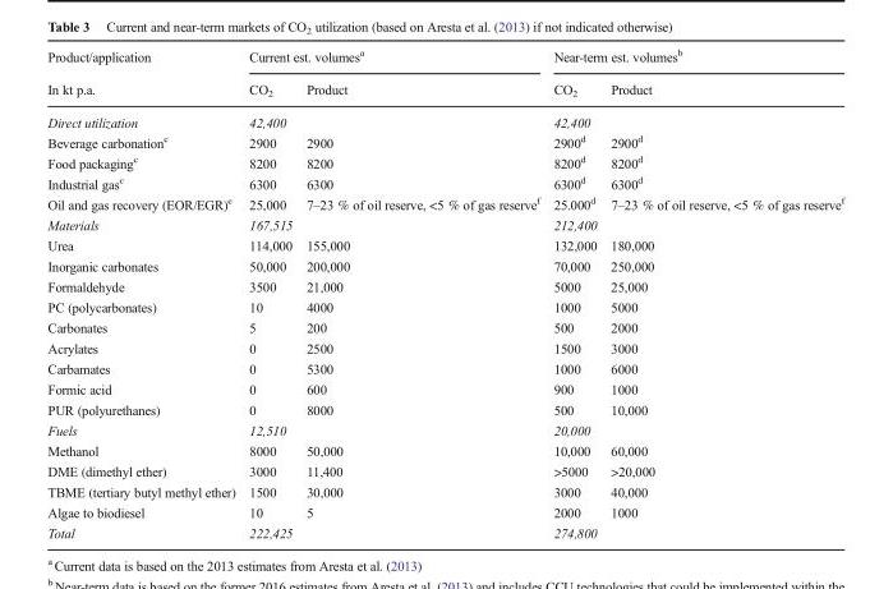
<table><thead><tr><td rowspan="2">Product/application In kt p.a.</td><td colspan="2">Current est. volumes<sup>a</sup></td><td colspan="2">Near-term est. volumes<sup>b</sup></td></tr><tr><td>CO<sub>2</sub></td><td>Product</td><td>CO<sub>2</sub></td><td>Product</td></tr></thead><tbody><tr><td>Direct utilization</td><td>42,400</td><td></td><td>42,400</td><td></td></tr><tr><td>Beverage carbonation<sup>c</sup></td><td>2900</td><td>2900</td><td>2900<sup>d</sup></td><td>2900<sup>d</sup></td></tr><tr><td>Food packaging<sup>c</sup></td><td>8200</td><td>8200</td><td>8200<sup>d</sup></td><td>8200<sup>d</sup></td></tr><tr><td>Industrial gas<sup>c</sup></td><td>6300</td><td>6300</td><td>6300<sup>d</sup></td><td>6300<sup>d</sup></td></tr><tr><td>Oil and gas recovery (EOR/EGR)<sup>e</sup></td><td>25,000</td><td>7–23 % of oil reserve, &lt;5 % of gas reserve<sup>f</sup></td><td>25.000<sup>d</sup></td><td>7–23 % of oil reserve, &lt;5 % of gas reserve<sup>f</sup></td></tr><tr><td>Materials</td><td>167,515</td><td></td><td>212,400</td><td></td></tr><tr><td>Urea</td><td>114,000</td><td>155,000</td><td>132,000</td><td>180,000</td></tr><tr><td>Inorganic carbonates</td><td>50,000</td><td>200,000</td><td>70,000</td><td>250,000</td></tr><tr><td>Formaldehyde</td><td>3500</td><td>21,000</td><td>5000</td><td>25,000</td></tr><tr><td>PC (polycarbonates)</td><td>10</td><td>4000</td><td>1000</td><td>5000</td></tr><tr><td>Carbonates</td><td>5</td><td>200</td><td>500</td><td>2000</td></tr><tr><td>Acrylates</td><td>0</td><td>2500</td><td>1500</td><td>3000</td></tr><tr><td>Carbamates</td><td>0</td><td>5300</td><td>1000</td><td>6000</td></tr><tr><td>Formic acid</td><td>0</td><td>600</td><td>900</td><td>1000</td></tr><tr><td>PUR (polyurethanes)</td><td>0</td><td>8000</td><td>500</td><td>10,000</td></tr><tr><td>Fuels</td><td>12,510</td><td></td><td>20,000</td><td></td></tr><tr><td>Methanol</td><td>8000</td><td>50,000</td><td>10,000</td><td>60,000</td></tr><tr><td>DME (dimethyl ether)</td><td>3000</td><td>11,400</td><td>&gt;5000</td><td>&gt;20,000</td></tr><tr><td>TBME (tertiary butyl methyl ether)</td><td>1500</td><td>30,000</td><td>3000</td><td>40,000</td></tr><tr><td>Algae to biodiesel</td><td>10</td><td>5</td><td>2000</td><td>1000</td></tr><tr><td>Total</td><td>222,425</td><td></td><td>274,800</td><td></td></tr></tbody></table>